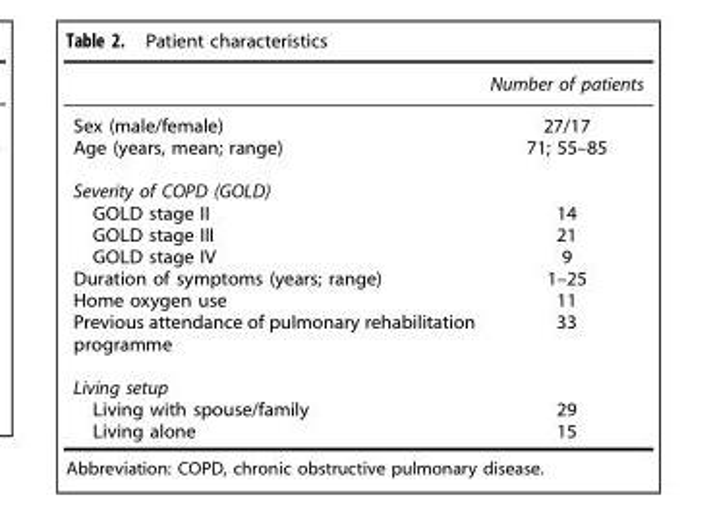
<table><thead><tr><td></td><td>Number of patients</td></tr></thead><tbody><tr><td>Sex (male/female)</td><td>27/17</td></tr><tr><td>Age (years, mean; range)</td><td>71; 55–85</td></tr><tr><td colspan="2">Severity of COPD (GOLD)</td></tr><tr><td>GOLD stage II</td><td>14</td></tr><tr><td>GOLD stage III</td><td>21</td></tr><tr><td>GOLD stage IV</td><td>9</td></tr><tr><td>Duration of symptoms (years; range)</td><td>1–25</td></tr><tr><td>Home oxygen use</td><td>11</td></tr><tr><td>Previous attendance of pulmonary rehabilitation programme</td><td>33</td></tr><tr><td colspan="2">Living setup</td></tr><tr><td>Living with spouse/family</td><td>29</td></tr><tr><td>Living alone</td><td>15</td></tr></tbody></table>